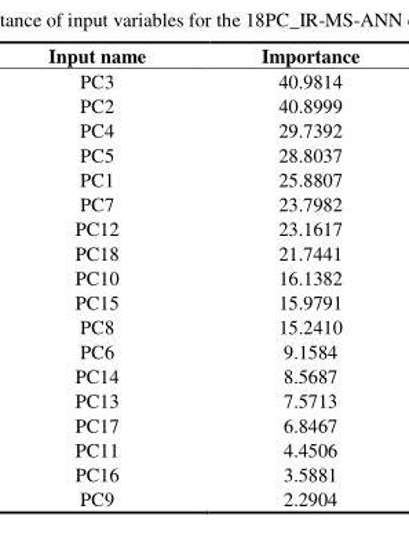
<table><thead><tr><td>Input name</td><td>Importance</td></tr></thead><tbody><tr><td>PC3</td><td>40.9814</td></tr><tr><td>PC2</td><td>40.8999</td></tr><tr><td>PC4</td><td>29.7392</td></tr><tr><td>PC5</td><td>28.8037</td></tr><tr><td>PC1</td><td>25.8807</td></tr><tr><td>PC7</td><td>23.7982</td></tr><tr><td>PC12</td><td>23.1617</td></tr><tr><td>PC18</td><td>21.7441</td></tr><tr><td>PC10</td><td>16.1382</td></tr><tr><td>PC15</td><td>15.9791</td></tr><tr><td>PC8</td><td>15.2410</td></tr><tr><td>PC6</td><td>9.1584</td></tr><tr><td>PC14</td><td>8.5687</td></tr><tr><td>PC13</td><td>7.5713</td></tr><tr><td>PC17</td><td>6.8467</td></tr><tr><td>PC11</td><td>4.4506</td></tr><tr><td>PC16</td><td>3.5881</td></tr><tr><td>PC9</td><td>2.2904</td></tr></tbody></table>